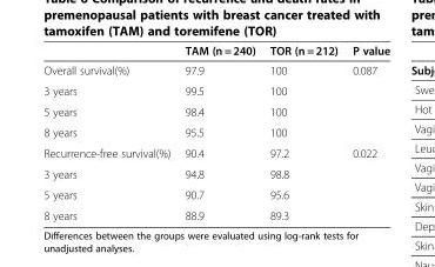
<table><thead><tr><td></td><td>TAM (n = 240)</td><td>TOR (n = 212)</td><td>P value</td></tr></thead><tbody><tr><td>Overall survival(%)</td><td>97.9</td><td>100</td><td>0.087</td></tr><tr><td>3 years</td><td>99.5</td><td>100</td><td></td></tr><tr><td>5 years</td><td>98.4</td><td>100</td><td></td></tr><tr><td>8 years</td><td>95.5</td><td>100</td><td></td></tr><tr><td>Recurrence-free survival(%)</td><td>90.4</td><td>97.2</td><td>0.022</td></tr><tr><td>3 years</td><td>94.8</td><td>98.8</td><td></td></tr><tr><td>5 years</td><td>90.7</td><td>95.6</td><td></td></tr><tr><td>8 years</td><td>88.9</td><td>89.3</td><td></td></tr></tbody></table>